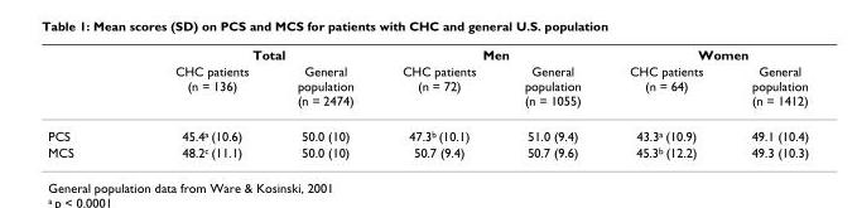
<table><thead><tr><td rowspan="2"></td><td colspan="2">Total</td><td colspan="2">Men</td><td colspan="2">Women</td></tr><tr><td>CHC patients (n = 136)</td><td>General population (n = 2474)</td><td>CHC patients (n = 72)</td><td>General population (n = 1055)</td><td>CHC patients (n = 64)</td><td>General population (n = 1412)</td></tr></thead><tbody><tr><td>PCS</td><td>45.4<sup>a</sup> (10.6)</td><td>50.0 (10)</td><td>47.3<sup>b</sup> (10.1)</td><td>51.0 (9.4)</td><td>43.3<sup>a</sup> (10.9)</td><td>49.1 (10.4)</td></tr><tr><td>MCS</td><td>48.2<sup>c</sup> (11.1)</td><td>50.0 (10)</td><td>50.7 (9.4)</td><td>50.7 (9.6)</td><td>45.3<sup>b</sup> (12.2)</td><td>49.3 (10.3)</td></tr></tbody></table>